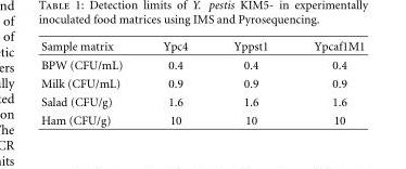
<table><thead><tr><td>Sample matrix</td><td>Ypc4</td><td>Yppst1</td><td>Ypcaf1M1</td></tr></thead><tbody><tr><td>BPW (CFU/mL)</td><td>0.4</td><td>0.4</td><td>0.4</td></tr><tr><td>Milk (CFU/mL)</td><td>0.9</td><td>0.9</td><td>0.9</td></tr><tr><td>Salad (CFU/g)</td><td>1.6</td><td>1.6</td><td>1.6</td></tr><tr><td>Ham (CFU/g)</td><td>10</td><td>10</td><td>10</td></tr></tbody></table>